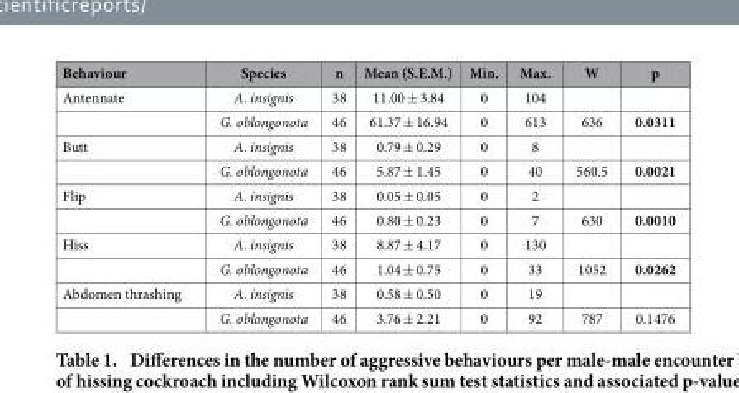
<table><thead><tr><td>Behaviour</td><td>Species</td><td>n</td><td>Mean (S.E.M.)</td><td>Min.</td><td>Max.</td><td>W</td><td>p</td></tr></thead><tbody><tr><td rowspan="2">Antennate</td><td>A. insignis</td><td>38</td><td>11.00 ± 3.84</td><td>0</td><td>104</td><td></td><td></td></tr><tr><td>G. oblongonota</td><td>46</td><td>61.37 ± 16.94</td><td>0</td><td>613</td><td>636</td><td>0.0311</td></tr><tr><td rowspan="2">Butt</td><td>A. insignis</td><td>38</td><td>0.79 ± 0.29</td><td>0</td><td>8</td><td></td><td></td></tr><tr><td>G. oblongonota</td><td>46</td><td>5.87 ± 1.45</td><td>0</td><td>40</td><td>560.5</td><td>0.0021</td></tr><tr><td rowspan="2">Flip</td><td>A. insignis</td><td>38</td><td>0.05 ± 0.05</td><td>0</td><td>2</td><td></td><td></td></tr><tr><td>G. oblongonota</td><td>46</td><td>0.80 ± 0.23</td><td>0</td><td>7</td><td>630</td><td>0.0010</td></tr><tr><td rowspan="2">Hiss</td><td>A. insignis</td><td>38</td><td>8.87 ± 4.17</td><td>0</td><td>130</td><td></td><td></td></tr><tr><td>G. oblongonota</td><td>46</td><td>1.04 ± 0.75</td><td>0</td><td>33</td><td>1052</td><td>0.0262</td></tr><tr><td rowspan="2">Abdomen thrashing</td><td>A. insignis</td><td>38</td><td>0.58 ± 0.50</td><td>0</td><td>19</td><td></td><td></td></tr><tr><td>G. oblongonota</td><td>46</td><td>3.76 ± 2.21</td><td>0</td><td>92</td><td>787</td><td>0.1476</td></tr></tbody></table>